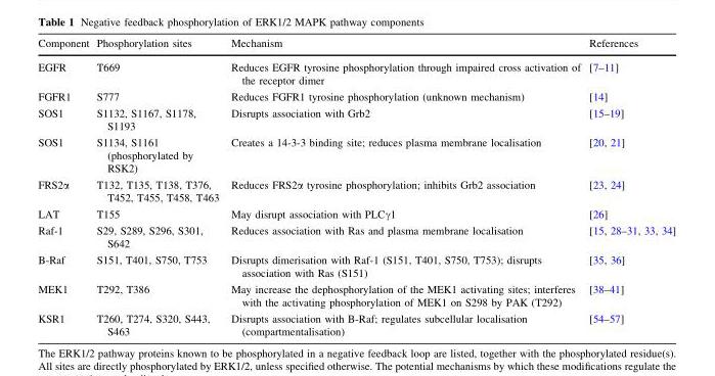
<table><thead><tr><td>Component</td><td>Phosphorylation sites</td><td>Mechanism</td><td>References</td></tr></thead><tbody><tr><td>EGFR</td><td>T669</td><td>Reduces EGFR tyrosine phosphorylation through impaired cross activation of the receptor dimer</td><td>[7–11]</td></tr><tr><td>FGFR1</td><td>S777</td><td>Reduces FGFR1 tyrosine phosphorylation (unknown mechanism)</td><td>[14]</td></tr><tr><td>SOS1</td><td>S1132, S1167, S1178, S1193</td><td>Disrupts association with Grb2</td><td>[15–19]</td></tr><tr><td>SOS1</td><td>S1134, S1161 (phosphorylated by RSK2)</td><td>Creates a 14-3-3 binding site; reduces plasma membrane localisation</td><td>[20, 21]</td></tr><tr><td>FRS2α</td><td>T132, T135, T138, T376, T452, T455, T458, T463</td><td>Reduces FRS2α tyrosine phosphorylation; inhibits Grb2 association</td><td>[23, 24]</td></tr><tr><td>LAT</td><td>T155</td><td>May disrupt association with PLCγ1</td><td>[26]</td></tr><tr><td>Raf-1</td><td>S29, S289, S296, S301, S642</td><td>Reduces association with Ras and plasma membrane localisation</td><td>[15, 28–31, 33, 34]</td></tr><tr><td>B-Raf</td><td>S151, T401, S750, T753</td><td>Disrupts dimerisation with Raf-1 (S151, T401, S750, T753); disrupts association with Ras (S151)</td><td>[35, 36]</td></tr><tr><td>MEK1</td><td>T292, T386</td><td>May increase the dephosphorylation of the MEK1 activating sites; interferes with the activating phosphorylation of MEK1 on S298 by PAK (T292)</td><td>[38–41]</td></tr><tr><td>KSR1</td><td>T260, T274, S320, S443, S463</td><td>Disrupts association with B-Raf; regulates subcellular localisation (compartmentalisation)</td><td>[54–57]</td></tr></tbody></table>